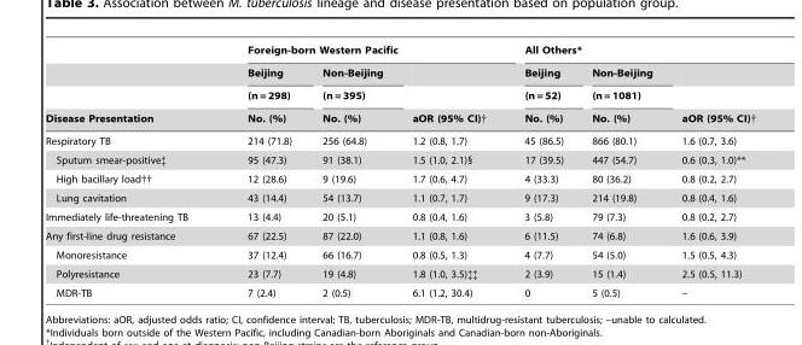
<table><thead><tr><td rowspan="4">Disease Presentation</td><td colspan="3">Foreign-born Western Pacific</td><td colspan="3">All Others*</td></tr><tr><td rowspan="3">Beijing (n = 298) No. (%)</td><td rowspan="3">Non-Beijing (n = 395) No. (%)</td><td rowspan="3">aOR (95% CI)†</td><td rowspan="3">Beijing (n = 52) No. (%)</td><td rowspan="3">Non-Beijing (n = 1081) No. (%)</td><td rowspan="3">aOR (95% CI)†</td></tr><tr></tr><tr></tr></thead><tbody><tr><td>Respiratory TB</td><td>214 (71.8)</td><td>256 (64.8)</td><td>1.2 (0.8, 1.7)</td><td>45 (86.5)</td><td>866 (80.1)</td><td>1.6 (0.7, 3.6)</td></tr><tr><td>Sputum smear-positive‡</td><td>95 (47.3)</td><td>91 (38.1)</td><td>1.5 (1.0, 2.1)§</td><td>17 (39.5)</td><td>447 (54.7)</td><td>0.6 (0.3, 1.0)**</td></tr><tr><td>High bacillary load††</td><td>12 (28.6)</td><td>9 (19.6)</td><td>1.7 (0.6, 4.7)</td><td>4 (33.3)</td><td>80 (36.2)</td><td>0.8 (0.2, 2.7)</td></tr><tr><td>Lung cavitation</td><td>43 (14.4)</td><td>54 (13.7)</td><td>1.1 (0.7, 1.7)</td><td>9 (17.3)</td><td>214 (19.8)</td><td>0.8 (0.4, 1.6)</td></tr><tr><td>Immediately life-threatening TB</td><td>13 (4.4)</td><td>20 (5.1)</td><td>0.8 (0.4, 1.6)</td><td>3 (5.8)</td><td>79 (7.3)</td><td>0.8 (0.2, 2.7)</td></tr><tr><td>Any first-line drug resistance</td><td>67 (22.5)</td><td>87 (22.0)</td><td>1.1 (0.8, 1.6)</td><td>6 (11.5)</td><td>74 (6.8)</td><td>1.6 (0.6, 3.9)</td></tr><tr><td>Monoresistance</td><td>37 (12.4)</td><td>66 (16.7)</td><td>0.8 (0.5, 1.3)</td><td>4 (7.7)</td><td>54 (5.0)</td><td>1.5 (0.5, 4.3)</td></tr><tr><td>Polyresistance</td><td>23 (7.7)</td><td>19 (4.8)</td><td>1.8 (1.0, 3.5)‡‡</td><td>2 (3.9)</td><td>15 (1.4)</td><td>2.5 (0.5, 11.3)</td></tr><tr><td>MDR-TB</td><td>7 (2.4)</td><td>2 (0.5)</td><td>6.1 (1.2, 30.4)</td><td>0</td><td>5 (0.5)</td><td>–</td></tr></tbody></table>